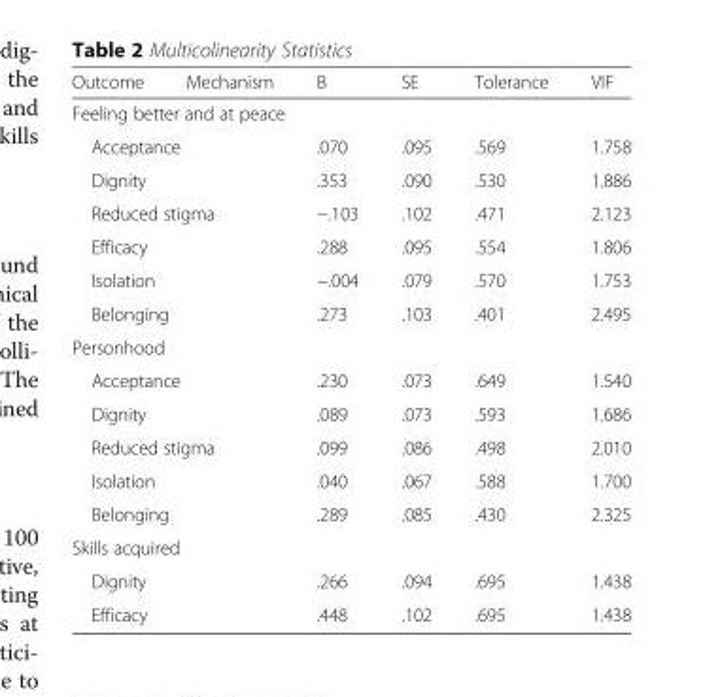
<table><thead><tr><td>Outcome</td><td>Mechanism</td><td>B</td><td>SE</td><td>Tolerance</td><td>VIF</td></tr></thead><tbody><tr><td colspan="6">Feeling better and at peace</td></tr><tr><td colspan="2">Acceptance</td><td>.070</td><td>.095</td><td>.569</td><td>1.758</td></tr><tr><td colspan="2">Dignity</td><td>.353</td><td>.090</td><td>.530</td><td>1.886</td></tr><tr><td colspan="2">Reduced stigma</td><td>−.103</td><td>.102</td><td>.471</td><td>2.123</td></tr><tr><td colspan="2">Efficacy</td><td>.288</td><td>.095</td><td>.554</td><td>1.806</td></tr><tr><td colspan="2">Isolation</td><td>−.004</td><td>.079</td><td>.570</td><td>1.753</td></tr><tr><td colspan="2">Belonging</td><td>.273</td><td>.103</td><td>.401</td><td>2.495</td></tr><tr><td colspan="6">Personhood</td></tr><tr><td colspan="2">Acceptance</td><td>.230</td><td>.073</td><td>.649</td><td>1.540</td></tr><tr><td colspan="2">Dignity</td><td>.089</td><td>.073</td><td>.593</td><td>1.686</td></tr><tr><td colspan="2">Reduced stigma</td><td>.099</td><td>.086</td><td>.498</td><td>2.010</td></tr><tr><td colspan="2">Isolation</td><td>.040</td><td>.067</td><td>.588</td><td>1.700</td></tr><tr><td colspan="2">Belonging</td><td>.289</td><td>.085</td><td>.430</td><td>2.325</td></tr><tr><td colspan="6">Skills acquired</td></tr><tr><td colspan="2">Dignity</td><td>.266</td><td>.094</td><td>.695</td><td>1.438</td></tr><tr><td colspan="2">Efficacy</td><td>.448</td><td>.102</td><td>.695</td><td>1.438</td></tr></tbody></table>